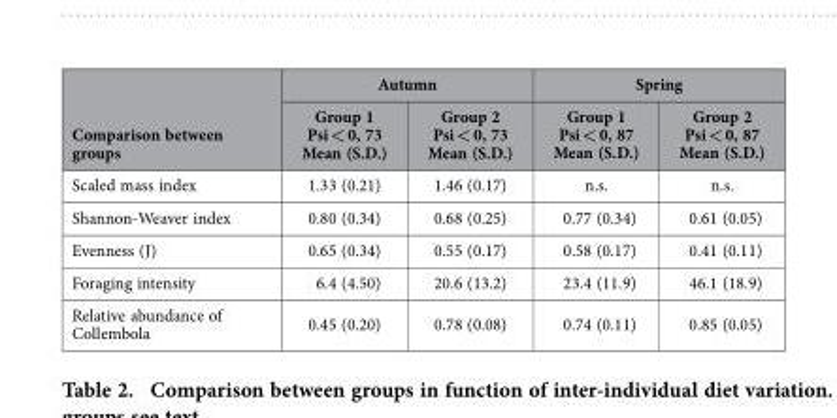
<table><thead><tr><td rowspan="2">Comparison between groups</td><td colspan="2">Autumn</td><td colspan="2">Spring</td></tr><tr><td>Group 1 Psi &lt; 0, 73 Mean (S.D.)</td><td>Group 2 Psi &lt; 0, 73 Mean (S.D.)</td><td>Group 1 Psi &lt; 0, 87 Mean (S.D.)</td><td>Group 2 Psi &lt; 0, 87 Mean (S.D.)</td></tr></thead><tbody><tr><td>Scaled mass index</td><td>1.33 (0.21)</td><td>1.46 (0.17)</td><td>n.s.</td><td>n.s.</td></tr><tr><td>Shannon-Weaver index</td><td>0.80 (0.34)</td><td>0.68 (0.25)</td><td>0.77 (0.34)</td><td>0.61 (0.05)</td></tr><tr><td>Evenness (J)</td><td>0.65 (0.34)</td><td>0.55 (0.17)</td><td>0.58 (0.17)</td><td>0.41 (0.11)</td></tr><tr><td>Foraging intensity</td><td>6.4 (4.50)</td><td>20.6 (13.2)</td><td>23.4 (11.9)</td><td>46.1 (18.9)</td></tr><tr><td>Relative abundance of Collembola</td><td>0.45 (0.20)</td><td>0.78 (0.08)</td><td>0.74 (0.11)</td><td>0.85 (0.05)</td></tr></tbody></table>